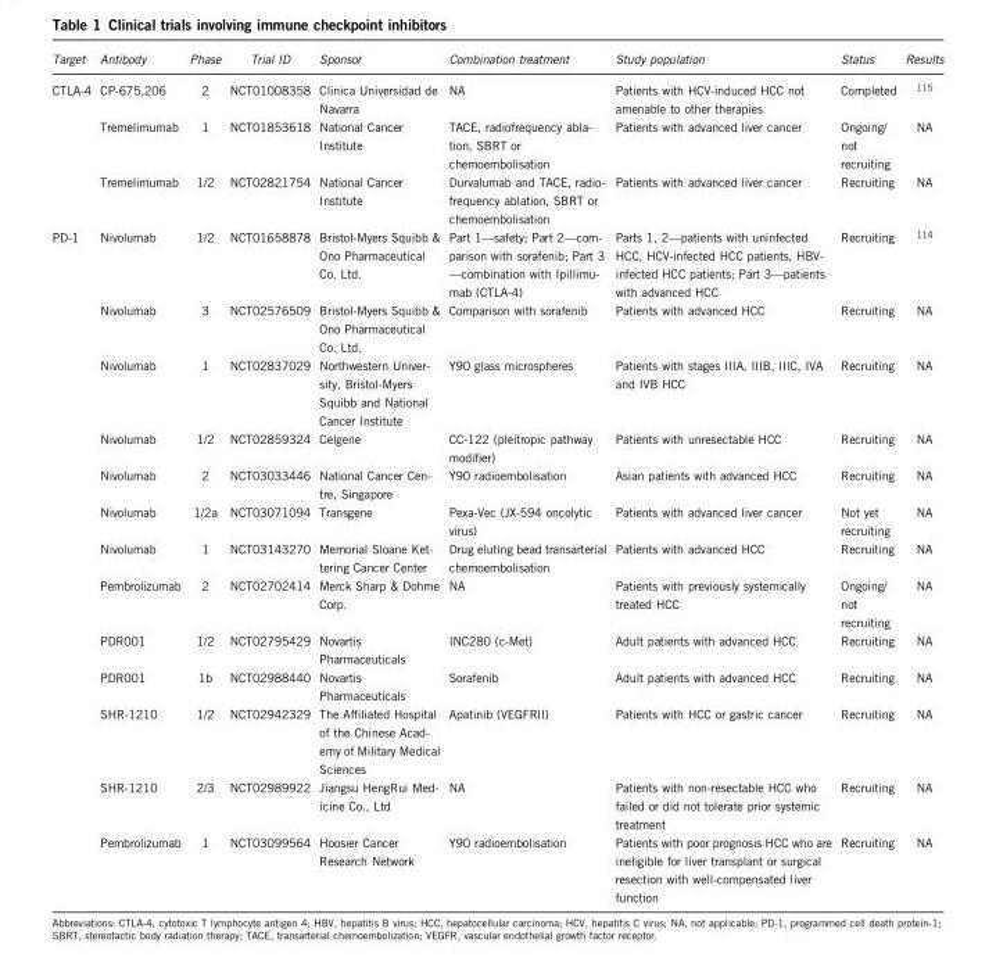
<table><thead><tr><td>Target</td><td>Antibody</td><td>Phase</td><td>Trial ID</td><td>Sponsor</td><td>Combination treatment</td><td>Study population</td><td>Status</td><td>Results</td></tr></thead><tbody><tr><td rowspan="3">CTLA-4</td><td>CP-675,206</td><td>2</td><td>NCT01008358</td><td>Clinica Universidad de Navarra</td><td>NA</td><td>Patients with HCV-induced HCC not amenable to other therapies</td><td>Completed</td><td><sup>115</sup></td></tr><tr><td>Tremelimumab</td><td>1</td><td>NCT01853618</td><td>National Cancer Institute</td><td>TACE, radiofrequency abla- tion, SBRT or chemoembolisation</td><td>Patients with advanced liver cancer</td><td>Ongoing/ not recruiting</td><td>NA</td></tr><tr><td>Tremelimumab</td><td>1/2</td><td>NCT02821754</td><td>National Cancer Institute</td><td>Durvalumab and TACE, radio- frequency ablation, SBRT or chemoembolisation</td><td>Patients with advanced liver cancer</td><td>Recruiting</td><td>NA</td></tr><tr><td rowspan="13">PD-1</td><td>Nivolumab</td><td>1/2</td><td>NCT01658878</td><td>Bristol-Myers Squibb &amp; Ono Pharmaceutical Co. Ltd.</td><td>Part 1—safety; Part 2—com- parison with sorafenib; Part 3 —combination with Ipillimu- mab (CTLA-4)</td><td>Parts 1, 2—patients with uninfected HCC, HCV-infected HCC patients, HBV- infected HCC patients; Part 3—patients with advanced HCC</td><td>Recruiting</td><td><sup>114</sup></td></tr><tr><td>Nivolumab</td><td>3</td><td>NCT02576509</td><td>Bristol-Myers Squibb &amp; Ono Pharmaceutical Co. Ltd.</td><td>Comparison with sorafenib</td><td>Patients with advanced HCC</td><td>Recruiting</td><td>NA</td></tr><tr><td>Nivolumab</td><td>1</td><td>NCT02837029</td><td>Northwestern Univer- sity, Bristol-Myers Squibb and National Cancer Institute</td><td>Y90 glass microspheres</td><td>Patients with stages IIIA, IIIB, IIIC, IVA and IVB HCC</td><td>Recruiting</td><td>NA</td></tr><tr><td>Nivolumab</td><td>1/2</td><td>NCT02859324</td><td>Celgene</td><td>CC-122 (pleitropic pathway modifier)</td><td>Patients with unresectable HCC</td><td>Recruiting</td><td>NA</td></tr><tr><td>Nivolumab</td><td>2</td><td>NCT03033446</td><td>National Cancer Cen- tre, Singapore</td><td>Y90 radioembolisation</td><td>Asian patients with advanced HCC</td><td>Recruiting</td><td>NA</td></tr><tr><td>Nivolumab</td><td>1/2a</td><td>NCT03071094</td><td>Transgene</td><td>Pexa-Vec (JX-594 oncolytic virus)</td><td>Patients with advanced liver cancer</td><td>Not yet recruiting</td><td>NA</td></tr><tr><td>Nivolumab</td><td>1</td><td>NCT03143270</td><td>Memorial Sloane Ket- tering Cancer Center</td><td>Drug eluting bead transarterial chemoembolisation</td><td>Patients with advanced HCC</td><td>Recruiting</td><td>NA</td></tr><tr><td>Pembrolizumab</td><td>2</td><td>NCT02702414</td><td>Merck Sharp &amp; Dohme Corp.</td><td>NA</td><td>Patients with previously systemically treated HCC</td><td>Ongoing/ not recruiting</td><td>NA</td></tr><tr><td>PDR001</td><td>1/2</td><td>NCT02795429</td><td>Novartis Pharmaceuticals</td><td>INC280 (c-Met)</td><td>Adult patients with advanced HCC</td><td>Recruiting</td><td>NA</td></tr><tr><td>PDR001</td><td>1b</td><td>NCT02988440</td><td>Novartis Pharmaceuticals</td><td>Sorafenib</td><td>Adult patients with advanced HCC</td><td>Recruiting</td><td>NA</td></tr><tr><td>SHR-1210</td><td>1/2</td><td>NCT02942329</td><td>The Affiliated Hospital of the Chinese Acad- emy of Military Medical Sciences</td><td>Apatinib (VEGFRII)</td><td>Patients with HCC or gastric cancer</td><td>Recruiting</td><td>NA</td></tr><tr><td>SHR-1210</td><td>2/3</td><td>NCT02989922</td><td>Jiangsu HengRui Med- icine Co., Ltd</td><td>NA</td><td>Patients with non-resectable HCC who failed or did not tolerate prior systemic treatment</td><td>Recruiting</td><td>NA</td></tr><tr><td>Pembrolizumab</td><td>1</td><td>NCT03099564</td><td>Hoosier Cancer Research Network</td><td>Y90 radioembolisation</td><td>Patients with poor prognosis HCC who are ineligible for liver transplant or surgical resection with well-compensated liver function</td><td>Recruiting</td><td>NA</td></tr></tbody></table>